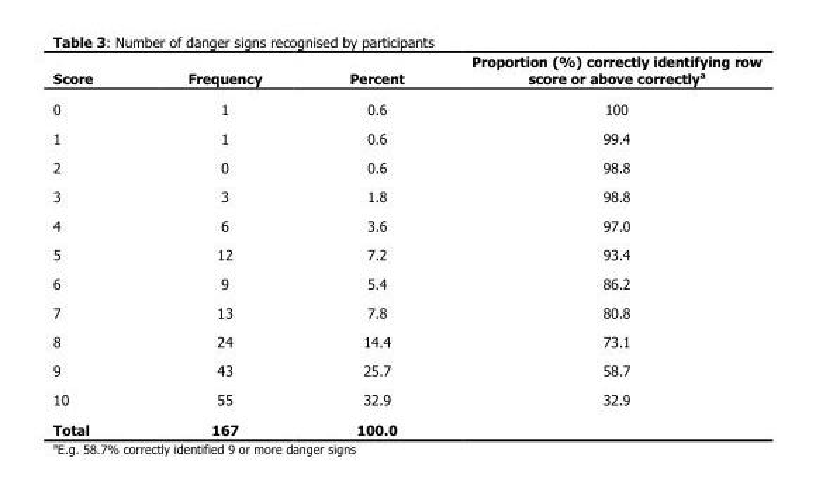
<table><thead><tr><td>Score</td><td>Frequency</td><td>Percent</td><td>Proportion (%) correctly identifying row score or above correctly<sup>a</sup></td></tr></thead><tbody><tr><td>0</td><td>1</td><td>0.6</td><td>100</td></tr><tr><td>1</td><td>1</td><td>0.6</td><td>99.4</td></tr><tr><td>2</td><td>0</td><td>0.6</td><td>98.8</td></tr><tr><td>3</td><td>3</td><td>1.8</td><td>98.8</td></tr><tr><td>4</td><td>6</td><td>3.6</td><td>97.0</td></tr><tr><td>5</td><td>12</td><td>7.2</td><td>93.4</td></tr><tr><td>6</td><td>9</td><td>5.4</td><td>86.2</td></tr><tr><td>7</td><td>13</td><td>7.8</td><td>80.8</td></tr><tr><td>8</td><td>24</td><td>14.4</td><td>73.1</td></tr><tr><td>9</td><td>43</td><td>25.7</td><td>58.7</td></tr><tr><td>10</td><td>55</td><td>32.9</td><td>32.9</td></tr><tr><td>Total</td><td>167</td><td>100.0</td><td></td></tr></tbody></table>